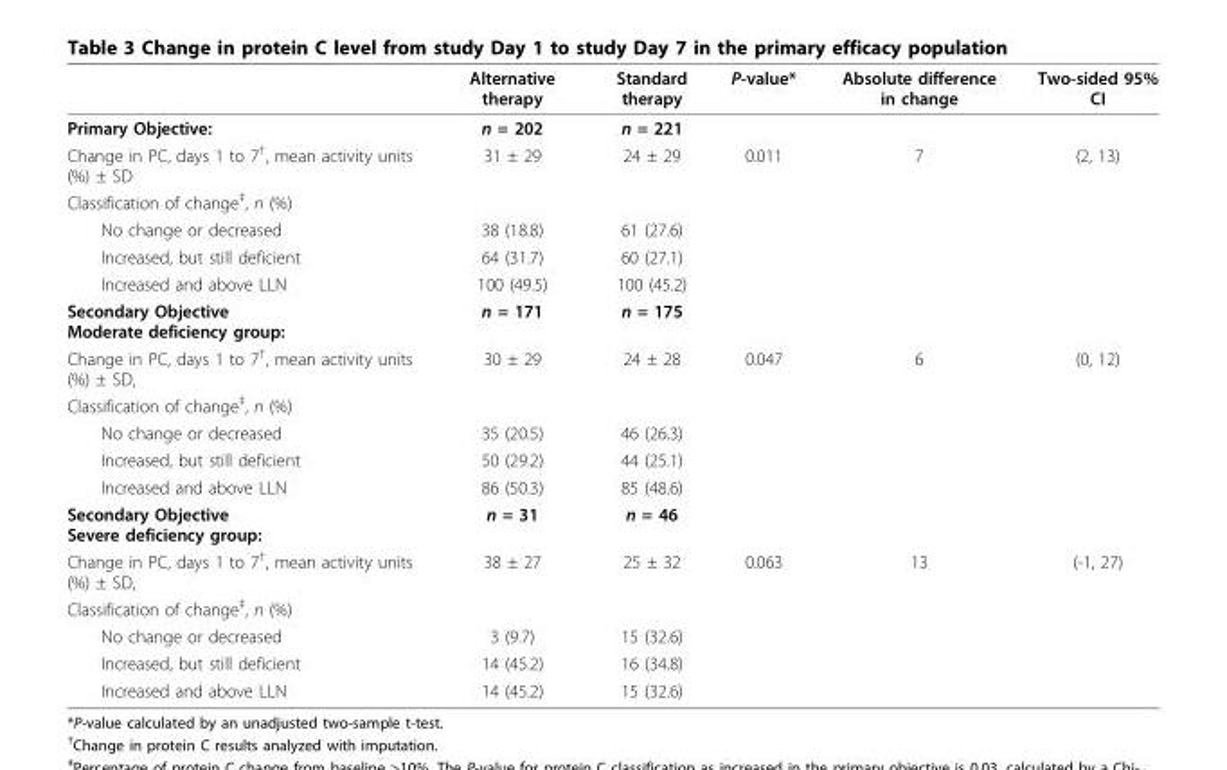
<table><thead><tr><td></td><td>Alternative therapy</td><td>Standard therapy</td><td>P-value*</td><td>Absolute difference in change</td><td>Two-sided 95% CI</td></tr></thead><tbody><tr><td>Primary Objective:</td><td>n = 202</td><td>n = 221</td><td></td><td></td><td></td></tr><tr><td>Change in PC, days 1 to 7<sup>†</sup>, mean activity units (%) ± SD</td><td>31 ± 29</td><td>24 ± 29</td><td>0.011</td><td>7</td><td>(2, 13)</td></tr><tr><td colspan="6">Classification of change<sup>‡</sup>, n (%)</td></tr><tr><td>No change or decreased</td><td>38 (18.8)</td><td>61 (27.6)</td><td></td><td></td><td></td></tr><tr><td>Increased, but still deficient</td><td>64 (31.7)</td><td>60 (27.1)</td><td></td><td></td><td></td></tr><tr><td>Increased and above LLN</td><td>100 (49.5)</td><td>100 (45.2)</td><td></td><td></td><td></td></tr><tr><td>Secondary Objective Moderate deficiency group:</td><td>n = 171</td><td>n = 175</td><td></td><td></td><td></td></tr><tr><td>Change in PC, days 1 to 7<sup>†</sup>, mean activity units (%) ± SD,</td><td>30 ± 29</td><td>24 ± 28</td><td>0.047</td><td>6</td><td>(0, 12)</td></tr><tr><td colspan="6">Classification of change<sup>‡</sup>, n (%)</td></tr><tr><td>No change or decreased</td><td>35 (20.5)</td><td>46 (26.3)</td><td></td><td></td><td></td></tr><tr><td>Increased, but still deficient</td><td>50 (29.2)</td><td>44 (25.1)</td><td></td><td></td><td></td></tr><tr><td>Increased and above LLN</td><td>86 (50.3)</td><td>85 (48.6)</td><td></td><td></td><td></td></tr><tr><td>Secondary Objective Severe deficiency group:</td><td>n = 31</td><td>n = 46</td><td></td><td></td><td></td></tr><tr><td>Change in PC, days 1 to 7<sup>†</sup>, mean activity units (%) ± SD,</td><td>38 ± 27</td><td>25 ± 32</td><td>0.063</td><td>13</td><td>(-1, 27)</td></tr><tr><td colspan="6">Classification of change<sup>‡</sup>, n (%)</td></tr><tr><td>No change or decreased</td><td>3 (9.7)</td><td>15 (32.6)</td><td></td><td></td><td></td></tr><tr><td>Increased, but still deficient</td><td>14 (45.2)</td><td>16 (34.8)</td><td></td><td></td><td></td></tr><tr><td>Increased and above LLN</td><td>14 (45.2)</td><td>15 (32.6)</td><td></td><td></td><td></td></tr></tbody></table>